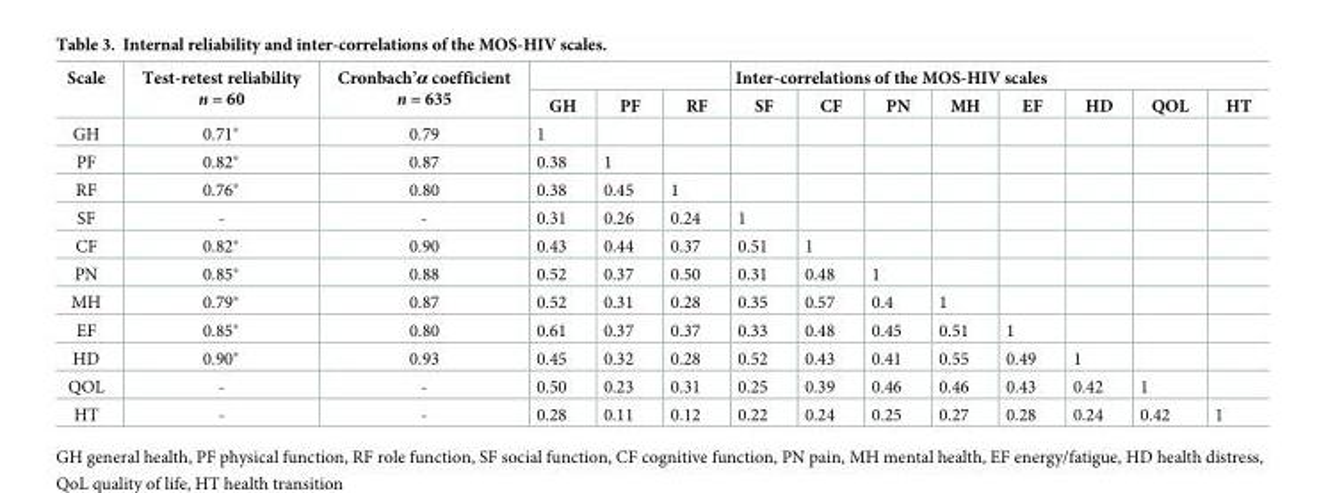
<table><thead><tr><td rowspan="2">Scale</td><td rowspan="2">Test-retest reliability n = 60</td><td rowspan="2">Cronbach’α coefficient n = 635</td><td rowspan="2">GH</td><td rowspan="2">PF</td><td rowspan="2">RF</td><td colspan="8">Inter-correlations of the MOS-HIV scales</td></tr><tr><td>SF</td><td>CF</td><td>PN</td><td>MH</td><td>EF</td><td>HD</td><td>QOL</td><td>HT</td></tr></thead><tbody><tr><td>GH</td><td>0.71*</td><td>0.79</td><td>1</td><td></td><td></td><td></td><td></td><td></td><td></td><td></td><td></td><td></td><td></td></tr><tr><td>PF</td><td>0.82*</td><td>0.87</td><td>0.38</td><td>1</td><td></td><td></td><td></td><td></td><td></td><td></td><td></td><td></td><td></td></tr><tr><td>RF</td><td>0.76*</td><td>0.80</td><td>0.38</td><td>0.45</td><td>1</td><td></td><td></td><td></td><td></td><td></td><td></td><td></td><td></td></tr><tr><td>SF</td><td>-</td><td>-</td><td>0.31</td><td>0.26</td><td>0.24</td><td>1</td><td></td><td></td><td></td><td></td><td></td><td></td><td></td></tr><tr><td>CF</td><td>0.82*</td><td>0.90</td><td>0.43</td><td>0.44</td><td>0.37</td><td>0.51</td><td>1</td><td></td><td></td><td></td><td></td><td></td><td></td></tr><tr><td>PN</td><td>0.85*</td><td>0.88</td><td>0.52</td><td>0.37</td><td>0.50</td><td>0.31</td><td>0.48</td><td>1</td><td></td><td></td><td></td><td></td><td></td></tr><tr><td>MH</td><td>0.79*</td><td>0.87</td><td>0.52</td><td>0.31</td><td>0.28</td><td>0.35</td><td>0.57</td><td>0.4</td><td>1</td><td></td><td></td><td></td><td></td></tr><tr><td>EF</td><td>0.85*</td><td>0.80</td><td>0.61</td><td>0.37</td><td>0.37</td><td>0.33</td><td>0.48</td><td>0.45</td><td>0.51</td><td>1</td><td></td><td></td><td></td></tr><tr><td>HD</td><td>0.90*</td><td>0.93</td><td>0.45</td><td>0.32</td><td>0.28</td><td>0.52</td><td>0.43</td><td>0.41</td><td>0.55</td><td>0.49</td><td>1</td><td></td><td></td></tr><tr><td>QOL</td><td>-</td><td>-</td><td>0.50</td><td>0.23</td><td>0.31</td><td>0.25</td><td>0.39</td><td>0.46</td><td>0.46</td><td>0.43</td><td>0.42</td><td>1</td><td></td></tr><tr><td>HT</td><td>-</td><td>-</td><td>0.28</td><td>0.11</td><td>0.12</td><td>0.22</td><td>0.24</td><td>0.25</td><td>0.27</td><td>0.28</td><td>0.24</td><td>0.42</td><td>1</td></tr></tbody></table>